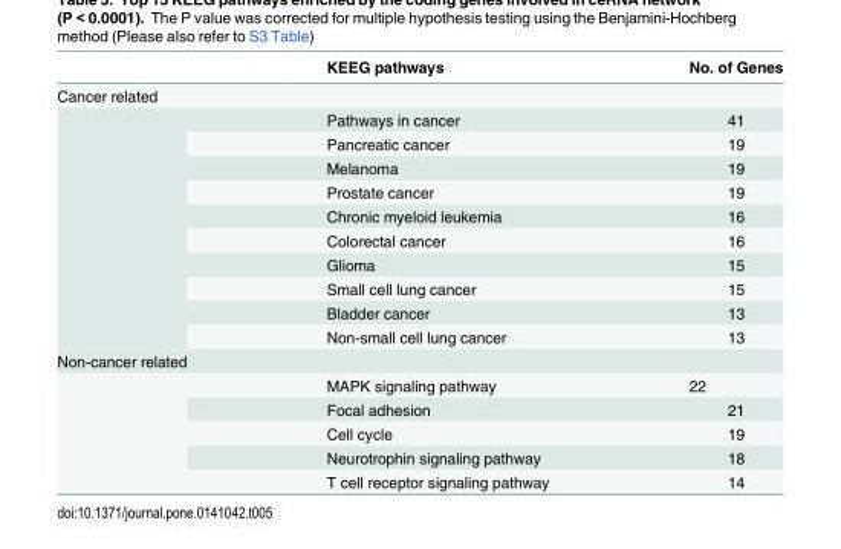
<table><thead><tr><td></td><td>KEEG pathways</td><td>No. of Genes</td></tr></thead><tbody><tr><td colspan="3">Cancer related</td></tr><tr><td rowspan="10"></td><td>Pathways in cancer</td><td>41</td></tr><tr><td>Pancreatic cancer</td><td>19</td></tr><tr><td>Melanoma</td><td>19</td></tr><tr><td>Prostate cancer</td><td>19</td></tr><tr><td>Chronic myeloid leukemia</td><td>16</td></tr><tr><td>Colorectal cancer</td><td>16</td></tr><tr><td>Glioma</td><td>15</td></tr><tr><td>Small cell lung cancer</td><td>15</td></tr><tr><td>Bladder cancer</td><td>13</td></tr><tr><td>Non-small cell lung cancer</td><td>13</td></tr><tr><td colspan="3">Non-cancer related</td></tr><tr><td rowspan="5"></td><td>MAPK signaling pathway</td><td>22</td></tr><tr><td>Focal adhesion</td><td>21</td></tr><tr><td>Cell cycle</td><td>19</td></tr><tr><td>Neurotrophin signaling pathway</td><td>18</td></tr><tr><td>T cell receptor signaling pathway</td><td>14</td></tr></tbody></table>